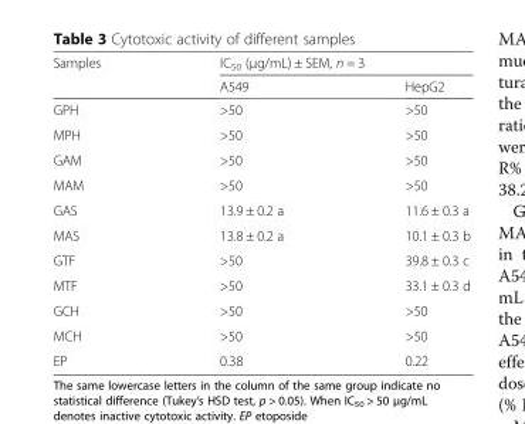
<table><thead><tr><td rowspan="2">Samples</td><td colspan="2">IC<sub>50</sub> (μg/mL) ± SEM, n = 3</td></tr><tr><td>A549</td><td>HepG2</td></tr></thead><tbody><tr><td>GPH</td><td>&gt;50</td><td>&gt;50</td></tr><tr><td>MPH</td><td>&gt;50</td><td>&gt;50</td></tr><tr><td>GAM</td><td>&gt;50</td><td>&gt;50</td></tr><tr><td>MAM</td><td>&gt;50</td><td>&gt;50</td></tr><tr><td>GAS</td><td>13.9 ± 0.2 a</td><td>11.6 ± 0.3 a</td></tr><tr><td>MAS</td><td>13.8 ± 0.2 a</td><td>10.1 ± 0.3 b</td></tr><tr><td>GTF</td><td>&gt;50</td><td>39.8 ± 0.3 c</td></tr><tr><td>MTF</td><td>&gt;50</td><td>33.1 ± 0.3 d</td></tr><tr><td>GCH</td><td>&gt;50</td><td>&gt;50</td></tr><tr><td>MCH</td><td>&gt;50</td><td>&gt;50</td></tr><tr><td>EP</td><td>0.38</td><td>0.22</td></tr></tbody></table>